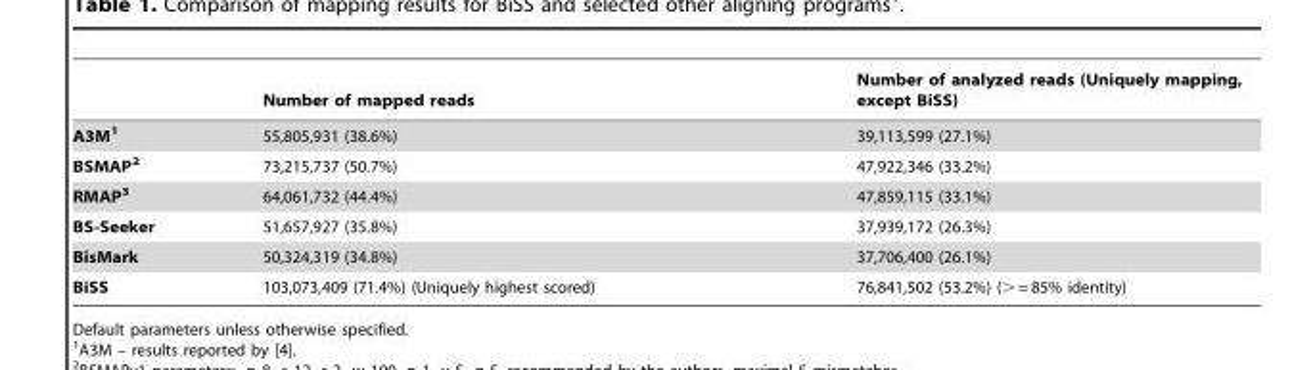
<table><thead><tr><td></td><td>Number of mapped reads</td><td>Number of analyzed reads (Uniquely mapping, except BiSS)</td></tr></thead><tbody><tr><td>A3M1</td><td>55,805,931 (38.6%)</td><td>39,113,599 (27.1%)</td></tr><tr><td>BSMAP2</td><td>73,215,737 (50.7%)</td><td>47,922,346 (33.2%)</td></tr><tr><td>RMAP3</td><td>64,061,732 (44.4%)</td><td>47,859,115 (33.1%)</td></tr><tr><td>BS-Seeker</td><td>51,657,927 (35.8%)</td><td>37,939,172 (26.3%)</td></tr><tr><td>BisMark</td><td>50,324,319 (34.8%)</td><td>37,706,400 (26.1%)</td></tr><tr><td>BiSS</td><td>103,073,409 (71.4%) (Uniquely highest scored)</td><td>76,841,502 (53.2%) (&gt; = 85% identity)</td></tr></tbody></table>